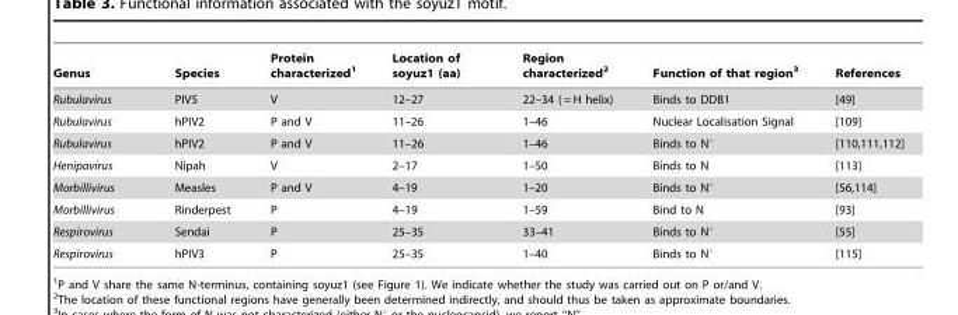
<table><thead><tr><td>Genus</td><td>Species</td><td>Protein characterized<sup>1</sup></td><td>Location of soyuz1 (aa)</td><td>Region characterized<sup>2</sup></td><td>Function of that region<sup>3</sup></td><td>References</td></tr></thead><tbody><tr><td>Rubulavirus</td><td>PIV5</td><td>V</td><td>12–27</td><td>22–34 ( = H helix)</td><td>Binds to DDB1</td><td>[49]</td></tr><tr><td>Rubulavirus</td><td>hPIV2</td><td>P and V</td><td>11–26</td><td>1–46</td><td>Nuclear Localisation Signal</td><td>[109]</td></tr><tr><td>Rubulavirus</td><td>hPIV2</td><td>P and V</td><td>11–26</td><td>1–46</td><td>Binds to N°</td><td>[110,111,112]</td></tr><tr><td>Henipavirus</td><td>Nipah</td><td>V</td><td>2–17</td><td>1–50</td><td>Binds to N</td><td>[113]</td></tr><tr><td>Morbillivirus</td><td>Measles</td><td>P and V</td><td>4–19</td><td>1–20</td><td>Binds to N°</td><td>[56,114]</td></tr><tr><td>Morbillivirus</td><td>Rinderpest</td><td>P</td><td>4–19</td><td>1–59</td><td>Bind to N</td><td>[93]</td></tr><tr><td>Respirovirus</td><td>Sendai</td><td>P</td><td>25–35</td><td>33–41</td><td>Binds to N°</td><td>[55]</td></tr><tr><td>Respirovirus</td><td>hPIV3</td><td>P</td><td>25–35</td><td>1–40</td><td>Binds to N°</td><td>[115]</td></tr></tbody></table>